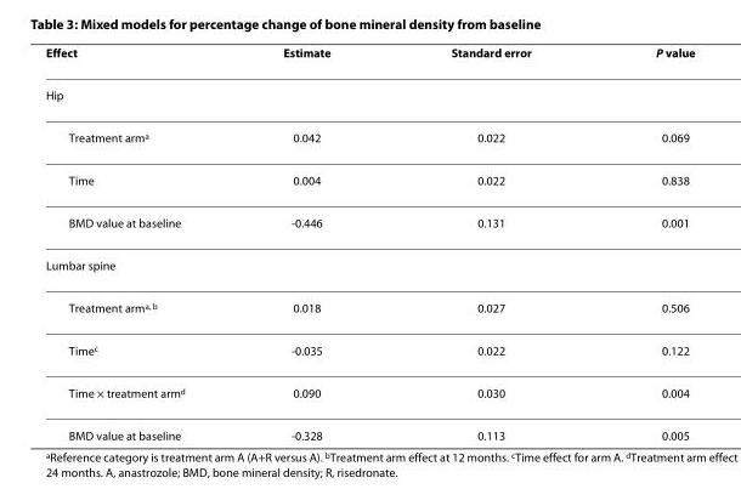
<table><thead><tr><td>Effect</td><td>Estimate</td><td>Standard error</td><td>P value</td></tr></thead><tbody><tr><td colspan="4">Hip</td></tr><tr><td>Treatment arm<sup>a</sup></td><td>0.042</td><td>0.022</td><td>0.069</td></tr><tr><td>Time</td><td>0.004</td><td>0.022</td><td>0.838</td></tr><tr><td>BMD value at baseline</td><td>-0.446</td><td>0.131</td><td>0.001</td></tr><tr><td colspan="4">Lumbar spine</td></tr><tr><td>Treatment arm<sup>a, b</sup></td><td>0.018</td><td>0.027</td><td>0.506</td></tr><tr><td>Time<sup>c</sup></td><td>-0.035</td><td>0.022</td><td>0.122</td></tr><tr><td>Time × treatment arm<sup>d</sup></td><td>0.090</td><td>0.030</td><td>0.004</td></tr><tr><td>BMD value at baseline</td><td>-0.328</td><td>0.113</td><td>0.005</td></tr></tbody></table>